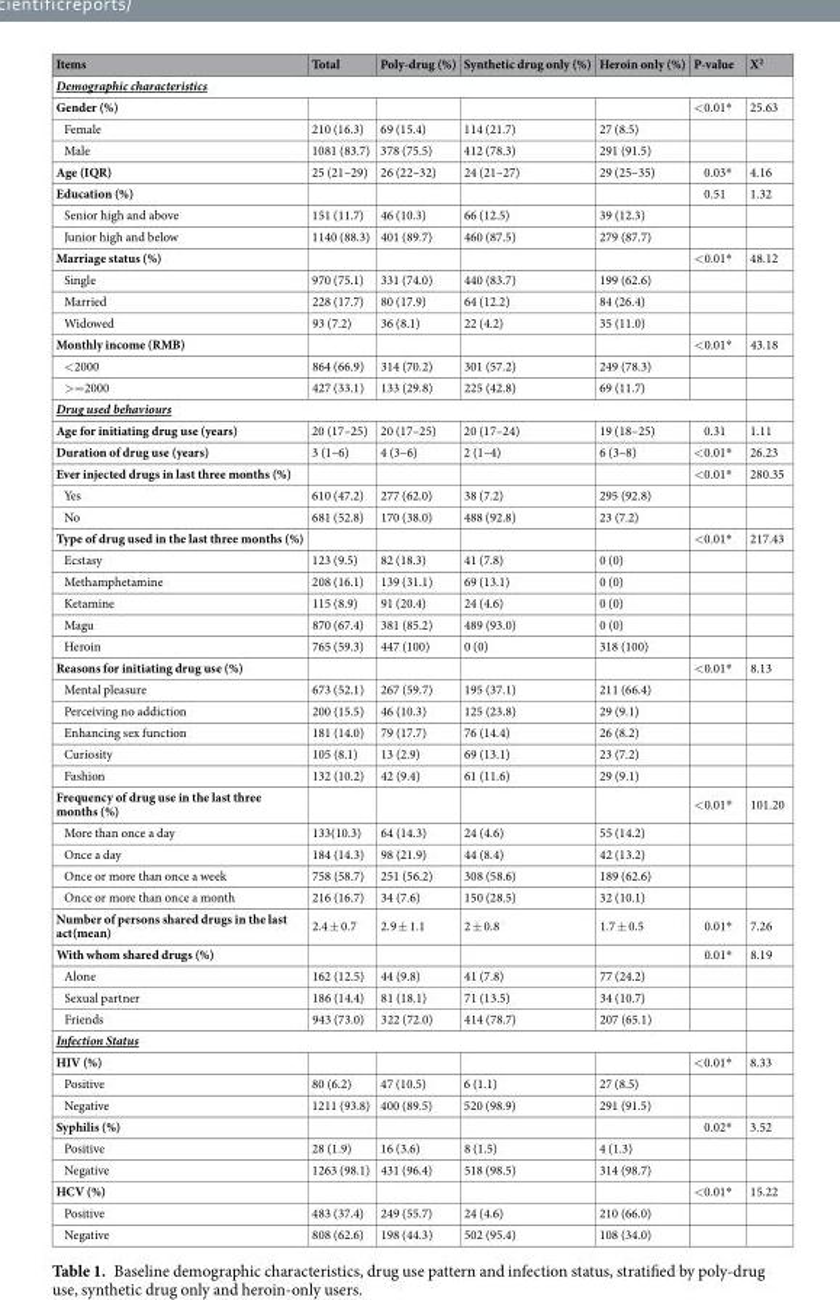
<table><thead><tr><td>Items</td><td>Total</td><td>Poly-drug (%)</td><td>Synthetic drug only (%)</td><td>Heroin only (%)</td><td>P-value</td><td>X<sup>2</sup></td></tr></thead><tbody><tr><td colspan="7">Demographic characteristics</td></tr><tr><td>Gender (%)</td><td></td><td></td><td></td><td></td><td>&lt;0.01*</td><td>25.63</td></tr><tr><td>Female</td><td>210 (16.3)</td><td>69 (15.4)</td><td>114 (21.7)</td><td>27 (8.5)</td><td></td><td></td></tr><tr><td>Male</td><td>1081 (83.7)</td><td>378 (75.5)</td><td>412 (78.3)</td><td>291 (91.5)</td><td></td><td></td></tr><tr><td>Age (IQR)</td><td>25 (21–29)</td><td>26 (22–32)</td><td>24 (21–27)</td><td>29 (25–35)</td><td>0.03*</td><td>4.16</td></tr><tr><td>Education (%)</td><td></td><td></td><td></td><td></td><td>0.51</td><td>1.32</td></tr><tr><td>Senior high and above</td><td>151 (11.7)</td><td>46 (10.3)</td><td>66 (12.5)</td><td>39 (12.3)</td><td></td><td></td></tr><tr><td>Junior high and below</td><td>1140 (88.3)</td><td>401 (89.7)</td><td>460 (87.5)</td><td>279 (87.7)</td><td></td><td></td></tr><tr><td>Marriage status (%)</td><td></td><td></td><td></td><td></td><td>&lt;0.01*</td><td>48.12</td></tr><tr><td>Single</td><td>970 (75.1)</td><td>331 (74.0)</td><td>440 (83.7)</td><td>199 (62.6)</td><td></td><td></td></tr><tr><td>Married</td><td>228 (17.7)</td><td>80 (17.9)</td><td>64 (12.2)</td><td>84 (26.4)</td><td></td><td></td></tr><tr><td>Widowed</td><td>93 (7.2)</td><td>36 (8.1)</td><td>22 (4.2)</td><td>35 (11.0)</td><td></td><td></td></tr><tr><td>Monthly income (RMB)</td><td></td><td></td><td></td><td></td><td>&lt;0.01*</td><td>43.18</td></tr><tr><td>&lt;2000</td><td>864 (66.9)</td><td>314 (70.2)</td><td>301 (57.2)</td><td>249 (78.3)</td><td></td><td></td></tr><tr><td>&gt;=2000</td><td>427 (33.1)</td><td>133 (29.8)</td><td>225 (42.8)</td><td>69 (11.7)</td><td></td><td></td></tr><tr><td colspan="7">Drug used behaviours</td></tr><tr><td>Age for initiating drug use (years)</td><td>20 (17–25)</td><td>20 (17–25)</td><td>20 (17–24)</td><td>19 (18–25)</td><td>0.31</td><td>1.11</td></tr><tr><td>Duration of drug use (years)</td><td>3 (1–6)</td><td>4 (3–6)</td><td>2 (1–4)</td><td>6 (3–8)</td><td>&lt;0.01*</td><td>26.23</td></tr><tr><td>Ever injected drugs in last three months (%)</td><td></td><td></td><td></td><td></td><td>&lt;0.01*</td><td>280.35</td></tr><tr><td>Yes</td><td>610 (47.2)</td><td>277 (62.0)</td><td>38 (7.2)</td><td>295 (92.8)</td><td></td><td></td></tr><tr><td>No</td><td>681 (52.8)</td><td>170 (38.0)</td><td>488 (92.8)</td><td>23 (7.2)</td><td></td><td></td></tr><tr><td>Type of drug used in the last three months (%)</td><td></td><td></td><td></td><td></td><td>&lt;0.01*</td><td>217.43</td></tr><tr><td>Ecstasy</td><td>123 (9.5)</td><td>82 (18.3)</td><td>41 (7.8)</td><td>0 (0)</td><td></td><td></td></tr><tr><td>Methamphetamine</td><td>208 (16.1)</td><td>139 (31.1)</td><td>69 (13.1)</td><td>0 (0)</td><td></td><td></td></tr><tr><td>Ketamine</td><td>115 (8.9)</td><td>91 (20.4)</td><td>24 (4.6)</td><td>0 (0)</td><td></td><td></td></tr><tr><td>Magu</td><td>870 (67.4)</td><td>381 (85.2)</td><td>489 (93.0)</td><td>0 (0)</td><td></td><td></td></tr><tr><td>Heroin</td><td>765 (59.3)</td><td>447 (100)</td><td>0 (0)</td><td>318 (100)</td><td></td><td></td></tr><tr><td>Reasons for initiating drug use (%)</td><td></td><td></td><td></td><td></td><td>&lt;0.01*</td><td>8.13</td></tr><tr><td>Mental pleasure</td><td>673 (52.1)</td><td>267 (59.7)</td><td>195 (37.1)</td><td>211 (66.4)</td><td></td><td></td></tr><tr><td>Perceiving no addiction</td><td>200 (15.5)</td><td>46 (10.3)</td><td>125 (23.8)</td><td>29 (9.1)</td><td></td><td></td></tr><tr><td>Enhancing sex function</td><td>181 (14.0)</td><td>79 (17.7)</td><td>76 (14.4)</td><td>26 (8.2)</td><td></td><td></td></tr><tr><td>Curiosity</td><td>105 (8.1)</td><td>13 (2.9)</td><td>69 (13.1)</td><td>23 (7.2)</td><td></td><td></td></tr><tr><td>Fashion</td><td>132 (10.2)</td><td>42 (9.4)</td><td>61 (11.6)</td><td>29 (9.1)</td><td></td><td></td></tr><tr><td>Frequency of drug use in the last three months (%)</td><td></td><td></td><td></td><td></td><td>&lt;0.01*</td><td>101.20</td></tr><tr><td>More than once a day</td><td>133(10.3)</td><td>64 (14.3)</td><td>24 (4.6)</td><td>55 (14.2)</td><td></td><td></td></tr><tr><td>Once a day</td><td>184 (14.3)</td><td>98 (21.9)</td><td>44 (8.4)</td><td>42 (13.2)</td><td></td><td></td></tr><tr><td>Once or more than once a week</td><td>758 (58.7)</td><td>251 (56.2)</td><td>308 (58.6)</td><td>189 (62.6)</td><td></td><td></td></tr><tr><td>Once or more than once a month</td><td>216 (16.7)</td><td>34 (7.6)</td><td>150 (28.5)</td><td>32 (10.1)</td><td></td><td></td></tr><tr><td>Number of persons shared drugs in the last act(mean)</td><td>2.4 ± 0.7</td><td>2.9 ± 1.1</td><td>2 ± 0.8</td><td>1.7 ± 0.5</td><td>0.01*</td><td>7.26</td></tr><tr><td>With whom shared drugs (%)</td><td></td><td></td><td></td><td></td><td>0.01*</td><td>8.19</td></tr><tr><td>Alone</td><td>162 (12.5)</td><td>44 (9.8)</td><td>41 (7.8)</td><td>77 (24.2)</td><td></td><td></td></tr><tr><td>Sexual partner</td><td>186 (14.4)</td><td>81 (18.1)</td><td>71 (13.5)</td><td>34 (10.7)</td><td></td><td></td></tr><tr><td>Friends</td><td>943 (73.0)</td><td>322 (72.0)</td><td>414 (78.7)</td><td>207 (65.1)</td><td></td><td></td></tr><tr><td colspan="7">Infection Status</td></tr><tr><td>HIV (%)</td><td></td><td></td><td></td><td></td><td>&lt;0.01*</td><td>8.33</td></tr><tr><td>Positive</td><td>80 (6.2)</td><td>47 (10.5)</td><td>6 (1.1)</td><td>27 (8.5)</td><td></td><td></td></tr><tr><td>Negative</td><td>1211 (93.8)</td><td>400 (89.5)</td><td>520 (98.9)</td><td>291 (91.5)</td><td></td><td></td></tr><tr><td>Syphilis (%)</td><td></td><td></td><td></td><td></td><td>0.02*</td><td>3.52</td></tr><tr><td>Positive</td><td>28 (1.9)</td><td>16 (3.6)</td><td>8 (1.5)</td><td>4 (1.3)</td><td></td><td></td></tr><tr><td>Negative</td><td>1263 (98.1)</td><td>431 (96.4)</td><td>518 (98.5)</td><td>314 (98.7)</td><td></td><td></td></tr><tr><td>HCV (%)</td><td></td><td></td><td></td><td></td><td>&lt;0.01*</td><td>15.22</td></tr><tr><td>Positive</td><td>483 (37.4)</td><td>249 (55.7)</td><td>24 (4.6)</td><td>210 (66.0)</td><td></td><td></td></tr><tr><td>Negative</td><td>808 (62.6)</td><td>198 (44.3)</td><td>502 (95.4)</td><td>108 (34.0)</td><td></td><td></td></tr></tbody></table>